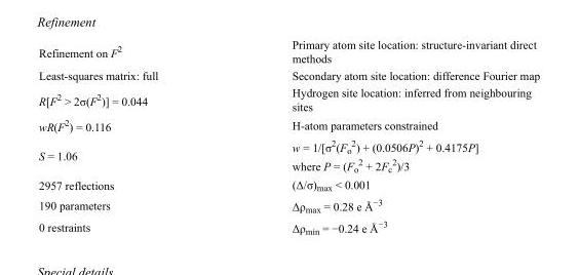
<table><tbody><tr><td>Refinement on F<sup>2</sup></td><td>Primary atom site location: structure-invariant direct methods</td></tr><tr><td>Least-squares matrix: full</td><td>Secondary atom site location: difference Fourier map</td></tr><tr><td>R[F<sup>2</sup> &gt; 2σ(F<sup>2</sup>)] = 0.044</td><td>Hydrogen site location: inferred from neighbouring sites</td></tr><tr><td>wR(F<sup>2</sup>) = 0.116</td><td>H-atom parameters constrained</td></tr><tr><td>S = 1.06</td><td>w = 1/[σ<sup>2</sup>(F<sub>o</sub> <sup>2</sup>) + (0.0506P)<sup>2</sup> + 0.4175P] where P = (F<sub>o</sub> <sup>2</sup> + 2F<sub>c</sub> <sup>2</sup>)/3</td></tr><tr><td>2957 reflections</td><td>(Δ/σ)<sub>max</sub> &lt; 0.001</td></tr><tr><td>190 parameters</td><td>Δρ<sub>max</sub> = 0.28 e Å<sup>−3</sup></td></tr><tr><td>0 restraints</td><td>Δρ<sub>min</sub> = −0.24 e Å<sup>−3</sup></td></tr></tbody></table>